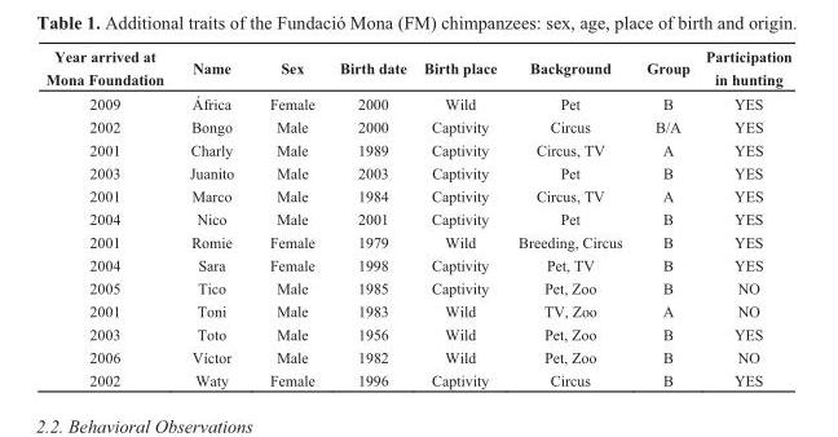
<table><thead><tr><td>Year arrived at Mona Foundation</td><td>Name</td><td>Sex</td><td>Birth date</td><td>Birth place</td><td>Background</td><td>Group</td><td>Participation in hunting</td></tr></thead><tbody><tr><td>2009</td><td>África</td><td>Female</td><td>2000</td><td>Wild</td><td>Pet</td><td>B</td><td>YES</td></tr><tr><td>2002</td><td>Bongo</td><td>Male</td><td>2000</td><td>Captivity</td><td>Circus</td><td>B/A</td><td>YES</td></tr><tr><td>2001</td><td>Charly</td><td>Male</td><td>1989</td><td>Captivity</td><td>Circus, TV</td><td>A</td><td>YES</td></tr><tr><td>2003</td><td>Juanito</td><td>Male</td><td>2003</td><td>Captivity</td><td>Pet</td><td>B</td><td>YES</td></tr><tr><td>2001</td><td>Marco</td><td>Male</td><td>1984</td><td>Captivity</td><td>Circus, TV</td><td>A</td><td>YES</td></tr><tr><td>2004</td><td>Nico</td><td>Male</td><td>2001</td><td>Captivity</td><td>Pet</td><td>B</td><td>YES</td></tr><tr><td>2001</td><td>Romie</td><td>Female</td><td>1979</td><td>Wild</td><td>Breeding, Circus</td><td>B</td><td>YES</td></tr><tr><td>2004</td><td>Sara</td><td>Female</td><td>1998</td><td>Captivity</td><td>Pet, TV</td><td>B</td><td>YES</td></tr><tr><td>2005</td><td>Tico</td><td>Male</td><td>1985</td><td>Captivity</td><td>Pet, Zoo</td><td>B</td><td>NO</td></tr><tr><td>2001</td><td>Toni</td><td>Male</td><td>1983</td><td>Wild</td><td>TV, Zoo</td><td>A</td><td>NO</td></tr><tr><td>2003</td><td>Toto</td><td>Male</td><td>1956</td><td>Wild</td><td>Pet, Zoo</td><td>B</td><td>YES</td></tr><tr><td>2006</td><td>Víctor</td><td>Male</td><td>1982</td><td>Wild</td><td>Pet, Zoo</td><td>B</td><td>NO</td></tr><tr><td>2002</td><td>Waty</td><td>Female</td><td>1996</td><td>Captivity</td><td>Circus</td><td>B</td><td>YES</td></tr></tbody></table>